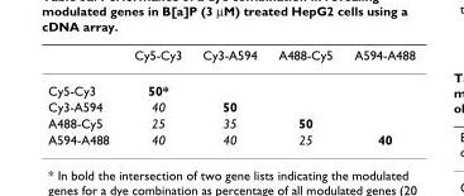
<table><thead><tr><td></td><td>Cy5-Cy3</td><td>Cy3-A594</td><td>A488-Cy5</td><td>A594-A488</td></tr></thead><tbody><tr><td>Cy5-Cy3</td><td>50*</td><td></td><td></td><td></td></tr><tr><td>Cy3-A594</td><td>40</td><td>50</td><td></td><td></td></tr><tr><td>A488-Cy5</td><td>25</td><td>35</td><td>50</td><td></td></tr><tr><td>A594-A488</td><td>40</td><td>40</td><td>25</td><td>40</td></tr></tbody></table>